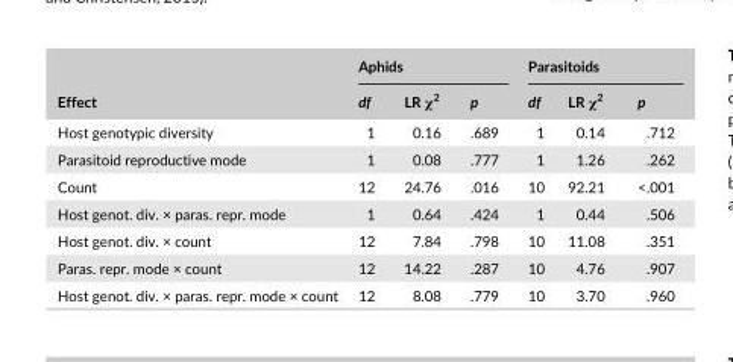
<table><thead><tr><td rowspan="2">Effect</td><td colspan="3">Aphids</td><td colspan="3">Parasitoids</td></tr><tr><td>df</td><td>LR χ<sup>2</sup></td><td>p</td><td>df</td><td>LR χ<sup>2</sup></td><td>p</td></tr></thead><tbody><tr><td>Host genotypic diversity</td><td>1</td><td>0.16</td><td>.689</td><td>1</td><td>0.14</td><td>.712</td></tr><tr><td>Parasitoid reproductive mode</td><td>1</td><td>0.08</td><td>.777</td><td>1</td><td>1.26</td><td>.262</td></tr><tr><td>Count</td><td>12</td><td>24.76</td><td>.016</td><td>10</td><td>92.21</td><td>&lt;.001</td></tr><tr><td>Host genot. div. × paras. repr. mode</td><td>1</td><td>0.64</td><td>.424</td><td>1</td><td>0.44</td><td>.506</td></tr><tr><td>Host genot. div. × count</td><td>12</td><td>7.84</td><td>.798</td><td>10</td><td>11.08</td><td>.351</td></tr><tr><td>Paras. repr. mode × count</td><td>12</td><td>14.22</td><td>.287</td><td>10</td><td>4.76</td><td>.907</td></tr><tr><td>Host genot. div. × paras. repr. mode × count</td><td>12</td><td>8.08</td><td>.779</td><td>10</td><td>3.70</td><td>.960</td></tr></tbody></table>